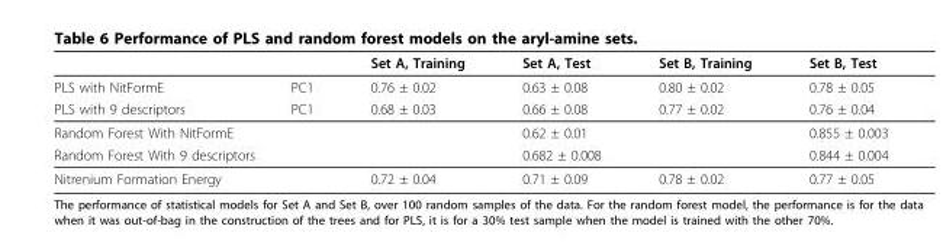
<table><thead><tr><td></td><td></td><td>Set A, Training</td><td>Set A, Test</td><td>Set B, Training</td><td>Set B, Test</td></tr></thead><tbody><tr><td>PLS with NitFormE</td><td>PC1</td><td>0.76 ± 0.02</td><td>0.63 ± 0.08</td><td>0.80 ± 0.02</td><td>0.78 ± 0.05</td></tr><tr><td>PLS with 9 descriptors</td><td>PC1</td><td>0.68 ± 0.03</td><td>0.66 ± 0.08</td><td>0.77 ± 0.02</td><td>0.76 ± 0.04</td></tr><tr><td>Random Forest With NitFormE</td><td></td><td></td><td>0.62 ± 0.01</td><td></td><td>0.855 ± 0.003</td></tr><tr><td colspan="2">Random Forest With 9 descriptors</td><td></td><td>0.682 ± 0.008</td><td></td><td>0.844 ± 0.004</td></tr><tr><td>Nitrenium Formation Energy</td><td></td><td>0.72 ± 0.04</td><td>0.71 ± 0.09</td><td>0.78 ± 0.02</td><td>0.77 ± 0.05</td></tr></tbody></table>